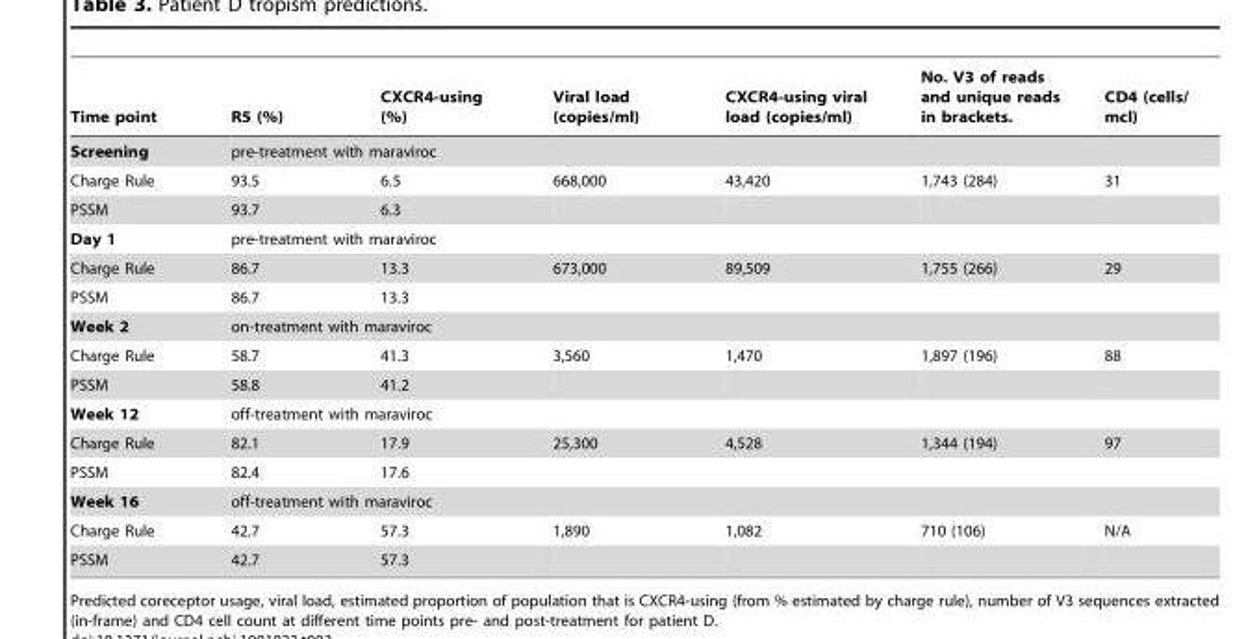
<table><thead><tr><td>Time point</td><td>R5 (%)</td><td>CXCR4-using (%)</td><td>Viral load (copies/ml)</td><td>CXCR4-using viral load (copies/ml)</td><td>No. V3 of reads and unique reads in brackets.</td><td>CD4 (cells/ mcl)</td></tr></thead><tbody><tr><td>Screening</td><td colspan="6">pre-treatment with maraviroc</td></tr><tr><td>Charge Rule</td><td>93.5</td><td>6.5</td><td>668,000</td><td>43,420</td><td>1,743 (284)</td><td>31</td></tr><tr><td>PSSM</td><td>93.7</td><td>6.3</td><td></td><td></td><td></td><td></td></tr><tr><td>Day 1</td><td colspan="6">pre-treatment with maraviroc</td></tr><tr><td>Charge Rule</td><td>86.7</td><td>13.3</td><td>673,000</td><td>89,509</td><td>1,755 (266)</td><td>29</td></tr><tr><td>PSSM</td><td>86.7</td><td>13.3</td><td></td><td></td><td></td><td></td></tr><tr><td>Week 2</td><td colspan="6">on-treatment with maraviroc</td></tr><tr><td>Charge Rule</td><td>58.7</td><td>41.3</td><td>3,560</td><td>1,470</td><td>1,897 (196)</td><td>88</td></tr><tr><td>PSSM</td><td>58.8</td><td>41.2</td><td></td><td></td><td></td><td></td></tr><tr><td>Week 12</td><td colspan="6">off-treatment with maraviroc</td></tr><tr><td>Charge Rule</td><td>82.1</td><td>17.9</td><td>25,300</td><td>4,528</td><td>1,344 (194)</td><td>97</td></tr><tr><td>PSSM</td><td>82.4</td><td>17.6</td><td></td><td></td><td></td><td></td></tr><tr><td>Week 16</td><td colspan="6">off-treatment with maraviroc</td></tr><tr><td>Charge Rule</td><td>42.7</td><td>57.3</td><td>1,890</td><td>1,082</td><td>710 (106)</td><td>N/A</td></tr><tr><td>PSSM</td><td>42.7</td><td>57.3</td><td></td><td></td><td></td><td></td></tr></tbody></table>